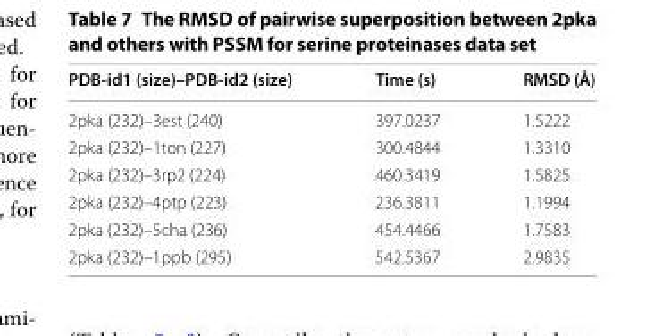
<table><thead><tr><td>PDB‑id1 (size)–PDB‑id2 (size)</td><td>Time (s)</td><td>RMSD (Å)</td></tr></thead><tbody><tr><td>2pka (232)–3est (240)</td><td>397.0237</td><td>1.5222</td></tr><tr><td>2pka (232)–1ton (227)</td><td>300.4844</td><td>1.3310</td></tr><tr><td>2pka (232)–3rp2 (224)</td><td>460.3419</td><td>1.5825</td></tr><tr><td>2pka (232)–4ptp (223)</td><td>236.3811</td><td>1.1994</td></tr><tr><td>2pka (232)–5cha (236)</td><td>454.4466</td><td>1.7583</td></tr><tr><td>2pka (232)–1ppb (295)</td><td>542.5367</td><td>2.9835</td></tr></tbody></table>